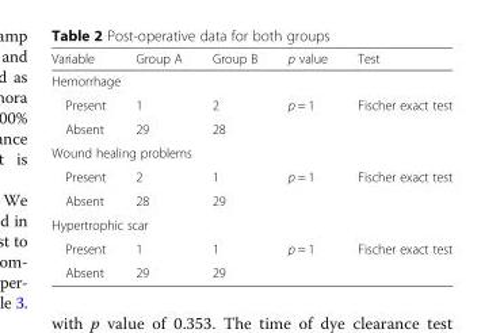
<table><thead><tr><td>Variable</td><td>Group A</td><td>Group B</td><td>p value</td><td>Test</td></tr></thead><tbody><tr><td colspan="5">Hemorrhage</td></tr><tr><td>Present</td><td>1</td><td>2</td><td>p = 1</td><td>Fischer exact test</td></tr><tr><td>Absent</td><td>29</td><td>28</td><td></td><td></td></tr><tr><td colspan="5">Wound healing problems</td></tr><tr><td>Present</td><td>2</td><td>1</td><td>p = 1</td><td>Fischer exact test</td></tr><tr><td>Absent</td><td>28</td><td>29</td><td></td><td></td></tr><tr><td colspan="5">Hypertrophic scar</td></tr><tr><td>Present</td><td>1</td><td>1</td><td>p = 1</td><td>Fischer exact test</td></tr><tr><td>Absent</td><td>29</td><td>29</td><td></td><td></td></tr></tbody></table>